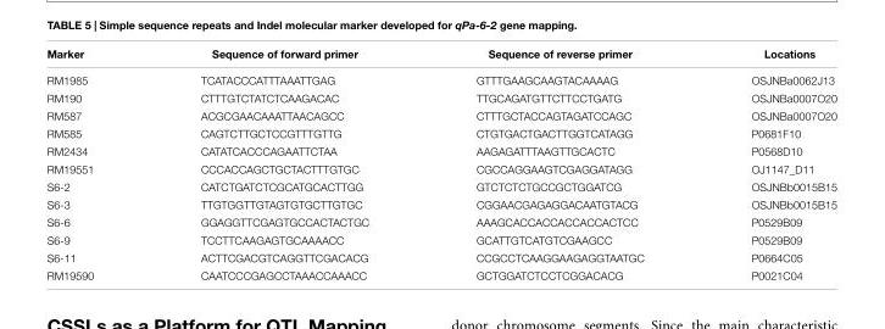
<table><thead><tr><td>Marker</td><td>Sequence of forward primer</td><td>Sequence of reverse primer</td><td>Locations</td></tr></thead><tbody><tr><td>RM1985</td><td>TCATACCCATTTAAATTGAG</td><td>GTTTGAAGCAAGTACAAAAG</td><td>OSJNBa0062J13</td></tr><tr><td>RM190</td><td>CTTTGTCTATCTCAAGACAC</td><td>TTGCAGATGTTCTTCCTGATG</td><td>OSJNBa0007O20</td></tr><tr><td>RM587</td><td>ACGCGAACAAATTAACAGCC</td><td>CTTTGCTACCAGTAGATCCAGC</td><td>OSJNBa0007O20</td></tr><tr><td>RM585</td><td>CAGTCTTGCTCCGTTTGTTG</td><td>CTGTGACTGACTTGGTCATAGG</td><td>P0681F10</td></tr><tr><td>RM2434</td><td>CATATCACCCAGAATTCTAA</td><td>AAGAGATTTAAGTTGCACTC</td><td>P0568D10</td></tr><tr><td>RM19551</td><td>CCCACCAGCTGCTACTTTGTGC</td><td>CGCCAGGAAGTCGAGGATAGG</td><td>OJ1147_D11</td></tr><tr><td>S6-2</td><td>CATCTGATCTCGCATGCACTTGG</td><td>GTCTCTCTGCCGCTGGATCG</td><td>OSJNBb0015B15</td></tr><tr><td>S6-3</td><td>TTGTGGTTGTAGTGTGCTTGTGC</td><td>CGGAACGAGAGGACAATGTACG</td><td>OSJNBb0015B15</td></tr><tr><td>S6-6</td><td>GGAGGTTCGAGTGCCACTACTGC</td><td>AAAGCACCACCACCACCACTCC</td><td>P0529B09</td></tr><tr><td>S6-9</td><td>TCCTTCAAGAGTGCAAAACC</td><td>GCATTGTCATGTCGAAGCC</td><td>P0529B09</td></tr><tr><td>S6-11</td><td>ACTTCGACGTCAGGTTCGACACG</td><td>CCGCCTCAAGGAAGAGGTAATGC</td><td>P0664C05</td></tr><tr><td>RM19590</td><td>CAATCCCGAGCCTAAACCAAACC</td><td>GCTGGATCTCCTCGGACACG</td><td>P0021C04</td></tr></tbody></table>